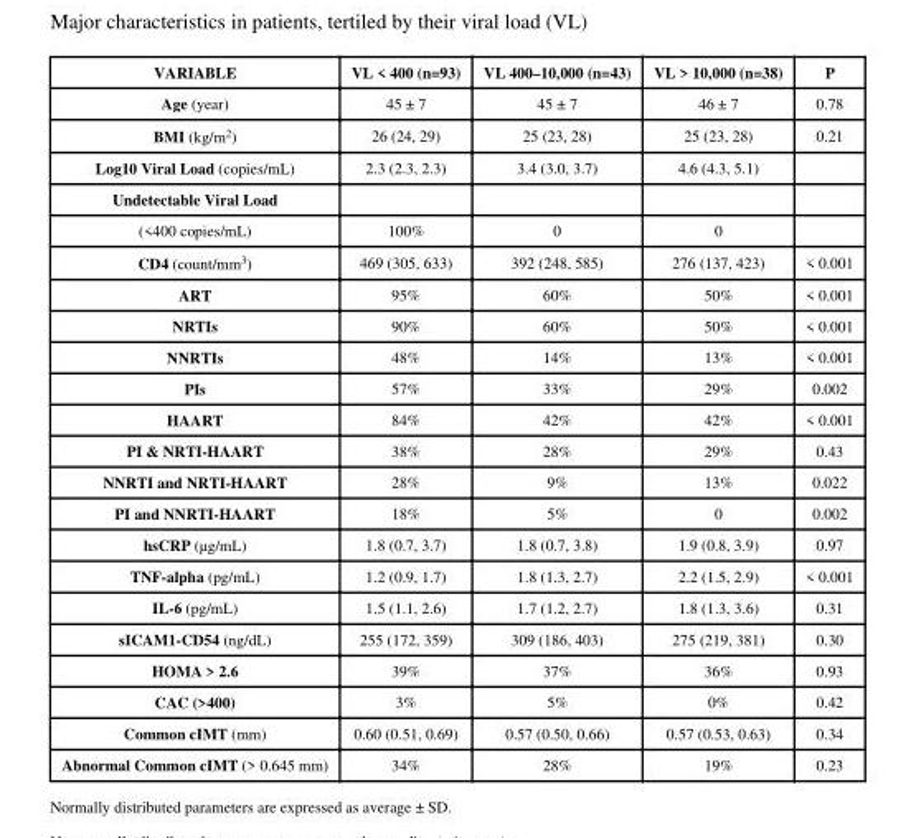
<table><thead><tr><td>VARIABLE</td><td>VL &lt; 400 (n=93)</td><td>VL 400–10,000 (n=43)</td><td>VL &gt; 10,000 (n=38)</td><td>P</td></tr></thead><tbody><tr><td>Age (year)</td><td>45 ± 7</td><td>45 ± 7</td><td>46 ± 7</td><td>0.78</td></tr><tr><td>BMI (kg/m<sup>2</sup>)</td><td>26 (24, 29)</td><td>25 (23, 28)</td><td>25 (23, 28)</td><td>0.21</td></tr><tr><td>Log10 Viral Load (copies/mL)</td><td>2.3 (2.3, 2.3)</td><td>3.4 (3.0, 3.7)</td><td>4.6 (4.3, 5.1)</td><td></td></tr><tr><td colspan="5">Undetectable Viral Load</td></tr><tr><td>(&lt;400 copies/mL)</td><td>100%</td><td>0</td><td>0</td><td></td></tr><tr><td>CD4 (count/mm<sup>3</sup>)</td><td>469 (305, 633)</td><td>392 (248, 585)</td><td>276 (137, 423)</td><td>&lt; 0.001</td></tr><tr><td>ART</td><td>95%</td><td>60%</td><td>50%</td><td>&lt; 0.001</td></tr><tr><td>NRTIs</td><td>90%</td><td>60%</td><td>50%</td><td>&lt; 0.001</td></tr><tr><td>NNRTIs</td><td>48%</td><td>14%</td><td>13%</td><td>&lt; 0.001</td></tr><tr><td>PIs</td><td>57%</td><td>33%</td><td>29%</td><td>0.002</td></tr><tr><td>HAART</td><td>84%</td><td>42%</td><td>42%</td><td>&lt; 0.001</td></tr><tr><td>PI &amp; NRTI-HAART</td><td>38%</td><td>28%</td><td>29%</td><td>0.43</td></tr><tr><td>NNRTI and NRTI-HAART</td><td>28%</td><td>9%</td><td>13%</td><td>0.022</td></tr><tr><td>PI and NNRTI-HAART</td><td>18%</td><td>5%</td><td>0</td><td>0.002</td></tr><tr><td>hsCRP (μg/mL)</td><td>1.8 (0.7, 3.7)</td><td>1.8 (0.7, 3.8)</td><td>1.9 (0.8, 3.9)</td><td>0.97</td></tr><tr><td>TNF-alpha (pg/mL)</td><td>1.2 (0.9, 1.7)</td><td>1.8 (1.3, 2.7)</td><td>2.2 (1.5, 2.9)</td><td>&lt; 0.001</td></tr><tr><td>IL-6 (pg/mL)</td><td>1.5 (1.1, 2.6)</td><td>1.7 (1.2, 2.7)</td><td>1.8 (1.3, 3.6)</td><td>0.31</td></tr><tr><td>sICAM1-CD54 (ng/dL)</td><td>255 (172, 359)</td><td>309 (186, 403)</td><td>275 (219, 381)</td><td>0.30</td></tr><tr><td>HOMA &gt; 2.6</td><td>39%</td><td>37%</td><td>36%</td><td>0.93</td></tr><tr><td>CAC (&gt;400)</td><td>3%</td><td>5%</td><td>0%</td><td>0.42</td></tr><tr><td>Common cIMT (mm)</td><td>0.60 (0.51, 0.69)</td><td>0.57 (0.50, 0.66)</td><td>0.57 (0.53, 0.63)</td><td>0.34</td></tr><tr><td>Abnormal Common cIMT (&gt; 0.645 mm)</td><td>34%</td><td>28%</td><td>19%</td><td>0.23</td></tr></tbody></table>